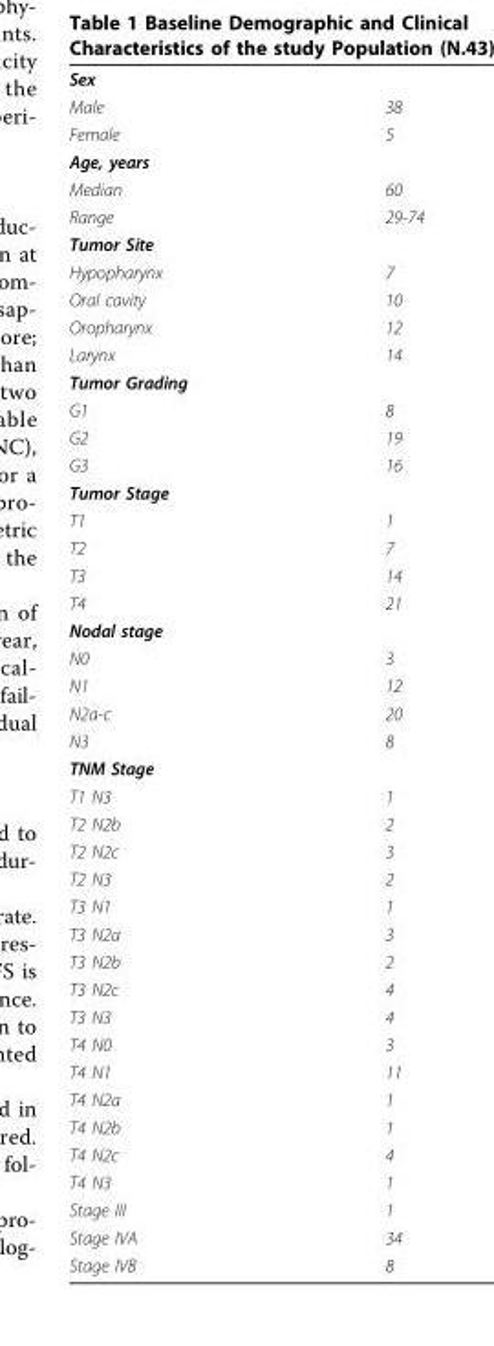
<table><tbody><tr><td colspan="2">Sex</td></tr><tr><td>Male</td><td>38</td></tr><tr><td>Female</td><td>5</td></tr><tr><td colspan="2">Age, years</td></tr><tr><td>Median</td><td>60</td></tr><tr><td>Range</td><td>29-74</td></tr><tr><td colspan="2">Tumor Site</td></tr><tr><td>Hypopharynx</td><td>7</td></tr><tr><td>Oral cavity</td><td>10</td></tr><tr><td>Oropharynx</td><td>12</td></tr><tr><td>Larynx</td><td>14</td></tr><tr><td colspan="2">Tumor Grading</td></tr><tr><td>G1</td><td>8</td></tr><tr><td>G2</td><td>19</td></tr><tr><td>G3</td><td>16</td></tr><tr><td colspan="2">Tumor Stage</td></tr><tr><td>T1</td><td>1</td></tr><tr><td>T2</td><td>7</td></tr><tr><td>T3</td><td>14</td></tr><tr><td>T4</td><td>21</td></tr><tr><td colspan="2">Nodal stage</td></tr><tr><td>N0</td><td>3</td></tr><tr><td>N1</td><td>12</td></tr><tr><td>N2a-c</td><td>20</td></tr><tr><td>N3</td><td>8</td></tr><tr><td colspan="2">TNM Stage</td></tr><tr><td>T1 N3</td><td>1</td></tr><tr><td>T2 N2b</td><td>2</td></tr><tr><td>T2 N2c</td><td>3</td></tr><tr><td>T2 N3</td><td>2</td></tr><tr><td>T3 N1</td><td>1</td></tr><tr><td>T3 N2a</td><td>3</td></tr><tr><td>T3 N2b</td><td>2</td></tr><tr><td>T3 N2c</td><td>4</td></tr><tr><td>T3 N3</td><td>4</td></tr><tr><td>T4 N0</td><td>3</td></tr><tr><td>T4 N1</td><td>11</td></tr><tr><td>T4 N2a</td><td>1</td></tr><tr><td>T4 N2b</td><td>1</td></tr><tr><td>T4 N2c</td><td>4</td></tr><tr><td>T4 N3</td><td>1</td></tr><tr><td>Stage III</td><td>1</td></tr><tr><td>Stage IVA</td><td>34</td></tr><tr><td>Stage IVB</td><td>8</td></tr></tbody></table>